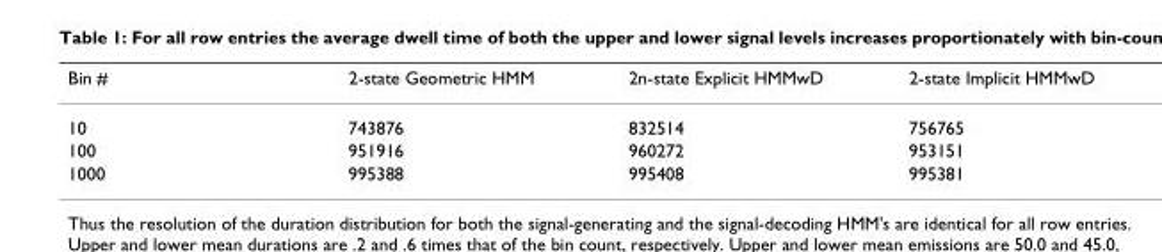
<table><thead><tr><td>Bin #</td><td>2-state Geometric HMM</td><td>2n-state Explicit HMMwD</td><td>2-state Implicit HMMwD</td></tr></thead><tbody><tr><td>10</td><td>743876</td><td>832514</td><td>756765</td></tr><tr><td>100</td><td>951916</td><td>960272</td><td>953151</td></tr><tr><td>1000</td><td>995388</td><td>995408</td><td>995381</td></tr></tbody></table>